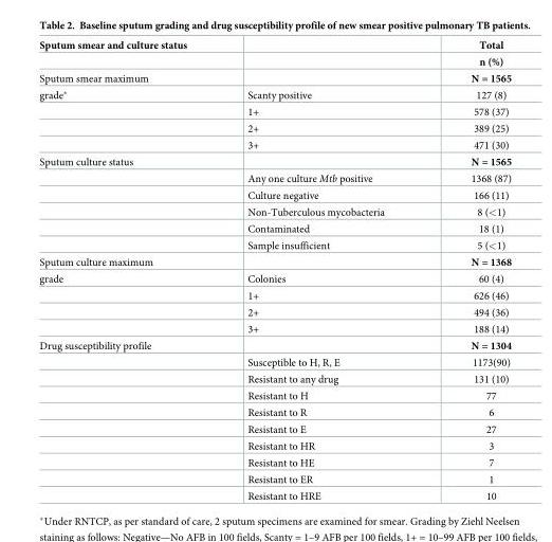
<table><thead><tr><td rowspan="2">Sputum smear and culture status</td><td rowspan="2"></td><td rowspan="2">Total n (%)</td></tr><tr></tr></thead><tbody><tr><td>Sputum smear maximum</td><td></td><td>N = 1565</td></tr><tr><td rowspan="4">grade*</td><td>Scanty positive</td><td>127 (8)</td></tr><tr><td>1+</td><td>578 (37)</td></tr><tr><td>2+</td><td>389 (25)</td></tr><tr><td>3+</td><td>471 (30)</td></tr><tr><td rowspan="6">Sputum culture status</td><td></td><td>N = 1565</td></tr><tr><td>Any one culture Mtb positive</td><td>1368 (87)</td></tr><tr><td>Culture negative</td><td>166 (11)</td></tr><tr><td>Non-Tuberculous mycobacteria</td><td>8 (&lt;1)</td></tr><tr><td>Contaminated</td><td>18 (1)</td></tr><tr><td>Sample insufficient</td><td>5 (&lt;1)</td></tr><tr><td>Sputum culture maximum</td><td></td><td>N = 1368</td></tr><tr><td rowspan="4">grade</td><td>Colonies</td><td>60 (4)</td></tr><tr><td>1+</td><td>626 (46)</td></tr><tr><td>2+</td><td>494 (36)</td></tr><tr><td>3+</td><td>188 (14)</td></tr><tr><td rowspan="10">Drug susceptibility profile</td><td></td><td>N = 1304</td></tr><tr><td>Susceptible to H, R, E</td><td>1173(90)</td></tr><tr><td>Resistant to any drug</td><td>131 (10)</td></tr><tr><td>Resistant to H</td><td>77</td></tr><tr><td>Resistant to R</td><td>6</td></tr><tr><td>Resistant to E</td><td>27</td></tr><tr><td>Resistant to HR</td><td>3</td></tr><tr><td>Resistant to HE</td><td>7</td></tr><tr><td>Resistant to ER</td><td>1</td></tr><tr><td>Resistant to HRE</td><td>10</td></tr></tbody></table>